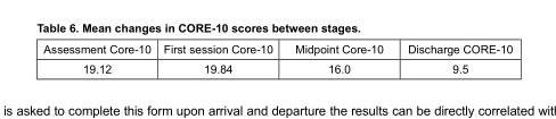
<table><thead><tr><td>Assessment Core-10</td><td>First session Core-10</td><td>Midpoint Core-10</td><td>Discharge CORE-10</td></tr></thead><tbody><tr><td>19.12</td><td>19.84</td><td>16.0</td><td>9.5</td></tr></tbody></table>